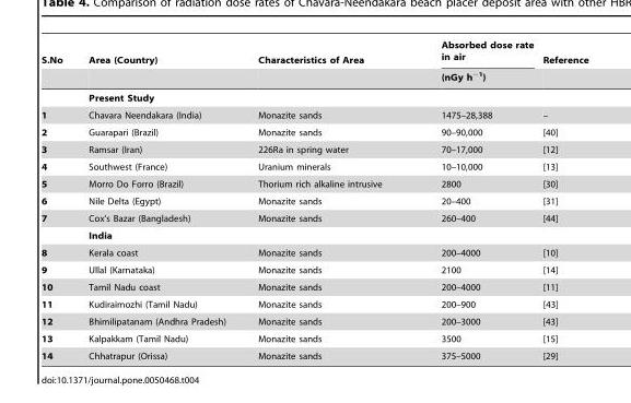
<table><thead><tr><td rowspan="2">S.No</td><td rowspan="2">Area (Country)</td><td rowspan="2">Characteristics of Area</td><td rowspan="2">Absorbed dose rate in air (nGy h<sup>−1</sup>)</td><td rowspan="2">Reference</td></tr><tr></tr></thead><tbody><tr><td></td><td>Present Study</td><td></td><td></td><td></td></tr><tr><td>1</td><td>Chavara Neendakara (India)</td><td>Monazite sands</td><td>1475–28,388</td><td>–</td></tr><tr><td>2</td><td>Guarapari (Brazil)</td><td>Monazite sands</td><td>90–90,000</td><td>[40]</td></tr><tr><td>3</td><td>Ramsar (Iran)</td><td>226Ra in spring water</td><td>70–17,000</td><td>[12]</td></tr><tr><td>4</td><td>Southwest (France)</td><td>Uranium minerals</td><td>10–10,000</td><td>[13]</td></tr><tr><td>5</td><td>Morro Do Forro (Brazil)</td><td>Thorium rich alkaline intrusive</td><td>2800</td><td>[30]</td></tr><tr><td>6</td><td>Nile Delta (Egypt)</td><td>Monazite sands</td><td>20–400</td><td>[31]</td></tr><tr><td rowspan="2">7</td><td>Cox’s Bazar (Bangladesh)</td><td>Monazite sands</td><td>260–400</td><td>[44]</td></tr><tr><td>India</td><td></td><td></td><td></td></tr><tr><td>8</td><td>Kerala coast</td><td>Monazite sands</td><td>200–4000</td><td>[10]</td></tr><tr><td>9</td><td>Ullal (Karnataka)</td><td>Monazite sands</td><td>2100</td><td>[14]</td></tr><tr><td>10</td><td>Tamil Nadu coast</td><td>Monazite sands</td><td>200–4000</td><td>[11]</td></tr><tr><td>11</td><td>Kudiraimozhi (Tamil Nadu)</td><td>Monazite sands</td><td>200–900</td><td>[43]</td></tr><tr><td>12</td><td>Bhimilipatanam (Andhra Pradesh)</td><td>Monazite sands</td><td>200–3000</td><td>[43]</td></tr><tr><td>13</td><td>Kalpakkam (Tamil Nadu)</td><td>Monazite sands</td><td>3500</td><td>[15]</td></tr><tr><td>14</td><td>Chhatrapur (Orissa)</td><td>Monazite sands</td><td>375–5000</td><td>[29]</td></tr></tbody></table>